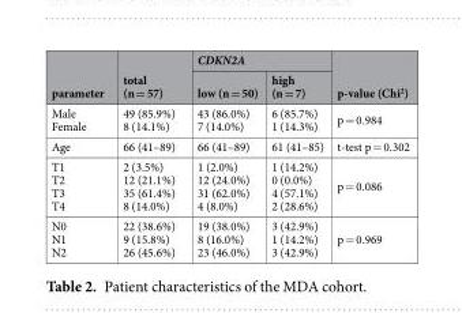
<table><thead><tr><td rowspan="2">parameter</td><td rowspan="2">total (n = 57)</td><td colspan="2">CDKN2A</td><td rowspan="2">p-value (Chi<sup>2</sup>)</td></tr><tr><td>low (n = 50)</td><td>high (n = 7)</td></tr></thead><tbody><tr><td>Male Female</td><td>49 (85.9%) 8 (14.1%)</td><td>43 (86.0%) 7 (14.0%)</td><td>6 (85.7%) 1 (14.3%)</td><td>p = 0.984</td></tr><tr><td>Age</td><td>66 (41–89)</td><td>66 (41–89)</td><td>61 (41–85)</td><td>t-test p = 0.302</td></tr><tr><td>T1 T2 T3 T4</td><td>2 (3.5%) 12 (21.1%) 35 (61.4%) 8 (14.0%)</td><td>1 (2.0%) 12 (24.0%) 31 (62.0%) 4 (8.0%)</td><td>1 (14.2%) 0 (0.0%) 4 (57.1%) 2 (28.6%)</td><td>p = 0.086</td></tr><tr><td>N0 N1 N2</td><td>22 (38.6%) 9 (15.8%) 26 (45.6%)</td><td>19 (38.0%) 8 (16.0%) 23 (46.0%)</td><td>3 (42.9%) 1 (14.2%) 3 (42.9%)</td><td>p = 0.969</td></tr></tbody></table>